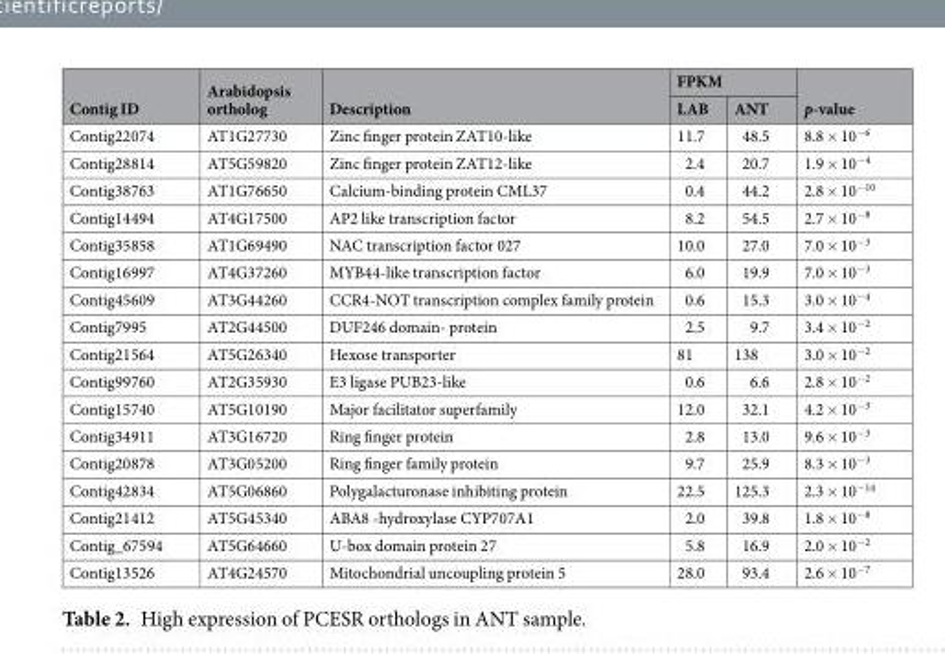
<table><thead><tr><td rowspan="2">Contig ID</td><td rowspan="2">Arabidopsis ortholog</td><td rowspan="2">Description</td><td colspan="2">FPKM</td><td rowspan="2">p-value</td></tr><tr><td>LAB</td><td>ANT</td></tr></thead><tbody><tr><td>Contig22074</td><td>AT1G27730</td><td>Zinc finger protein ZAT10-like</td><td>11.7</td><td>48.5</td><td>8.8 × 10<sup>−6</sup></td></tr><tr><td>Contig28814</td><td>AT5G59820</td><td>Zinc finger protein ZAT12-like</td><td>2.4</td><td>20.7</td><td>1.9 × 10<sup>−4</sup></td></tr><tr><td>Contig38763</td><td>AT1G76650</td><td>Calcium-binding protein CML37</td><td>0.4</td><td>44.2</td><td>2.8 × 10<sup>−10</sup></td></tr><tr><td>Contig14494</td><td>AT4G17500</td><td>AP2 like transcription factor</td><td>8.2</td><td>54.5</td><td>2.7 × 10<sup>−8</sup></td></tr><tr><td>Contig35858</td><td>AT1G69490</td><td>NAC transcription factor 027</td><td>10.0</td><td>27.0</td><td>7.0 × 10<sup>−3</sup></td></tr><tr><td>Contig16997</td><td>AT4G37260</td><td>MYB44-like transcription factor</td><td>6.0</td><td>19.9</td><td>7.0 × 10<sup>−3</sup></td></tr><tr><td>Contig45609</td><td>AT3G44260</td><td>CCR4-NOT transcription complex family protein</td><td>0.6</td><td>15.3</td><td>3.0 × 10<sup>−4</sup></td></tr><tr><td>Contig7995</td><td>AT2G44500</td><td>DUF246 domain- protein</td><td>2.5</td><td>9.7</td><td>3.4 × 10<sup>−2</sup></td></tr><tr><td>Contig21564</td><td>AT5G26340</td><td>Hexose transporter</td><td>81</td><td>138</td><td>3.0 × 10<sup>−2</sup></td></tr><tr><td>Contig99760</td><td>AT2G35930</td><td>E3 ligase PUB23-like</td><td>0.6</td><td>6.6</td><td>2.8 × 10<sup>−2</sup></td></tr><tr><td>Contig15740</td><td>AT5G10190</td><td>Major facilitator superfamily</td><td>12.0</td><td>32.1</td><td>4.2 × 10<sup>−3</sup></td></tr><tr><td>Contig34911</td><td>AT3G16720</td><td>Ring finger protein</td><td>2.8</td><td>13.0</td><td>9.6 × 10<sup>−3</sup></td></tr><tr><td>Contig20878</td><td>AT3G05200</td><td>Ring finger family protein</td><td>9.7</td><td>25.9</td><td>8.3 × 10<sup>−3</sup></td></tr><tr><td>Contig42834</td><td>AT5G06860</td><td>Polygalacturonase inhibiting protein</td><td>22.5</td><td>125.3</td><td>2.3 × 10<sup>−14</sup></td></tr><tr><td>Contig21412</td><td>AT5G45340</td><td>ABA8 -hydroxylase CYP707A1</td><td>2.0</td><td>39.8</td><td>1.8 × 10<sup>−8</sup></td></tr><tr><td>Contig_67594</td><td>AT5G64660</td><td>U-box domain protein 27</td><td>5.8</td><td>16.9</td><td>2.0 × 10<sup>−2</sup></td></tr><tr><td>Contig13526</td><td>AT4G24570</td><td>Mitochondrial uncoupling protein 5</td><td>28.0</td><td>93.4</td><td>2.6 × 10<sup>−7</sup></td></tr></tbody></table>